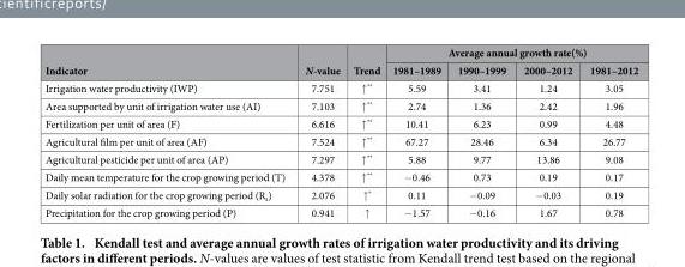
<table><thead><tr><td rowspan="2">Indicator</td><td rowspan="2">N-value</td><td rowspan="2">Trend</td><td colspan="4">Average annual growth rate(%)</td></tr><tr><td>1981–1989</td><td>1990–1999</td><td>2000–2012</td><td>1981–2012</td></tr></thead><tbody><tr><td>Irrigation water productivity (IWP)</td><td>7.751</td><td>↑ **</td><td>5.59</td><td>3.41</td><td>1.24</td><td>3.05</td></tr><tr><td>Area supported by unit of irrigation water use (AI)</td><td>7.103</td><td>↑ **</td><td>2.74</td><td>1.36</td><td>2.42</td><td>1.96</td></tr><tr><td>Fertilization per unit of area (F)</td><td>6.616</td><td>↑ **</td><td>10.41</td><td>6.23</td><td>0.99</td><td>4.48</td></tr><tr><td>Agricultural film per unit of area (AF)</td><td>7.524</td><td>↑ **</td><td>67.27</td><td>28.46</td><td>6.34</td><td>26.77</td></tr><tr><td>Agricultural pesticide per unit of area (AP)</td><td>7.297</td><td>↑ **</td><td>5.88</td><td>9.77</td><td>13.86</td><td>9.08</td></tr><tr><td>Daily mean temperature for the crop growing period (T)</td><td>4.378</td><td>↑ **</td><td>− 0.46</td><td>0.73</td><td>0.19</td><td>0.17</td></tr><tr><td>Daily solar radiation for the crop growing period (R<sub>s</sub>)</td><td>2.076</td><td>↑ *</td><td>0.11</td><td>− 0.09</td><td>− 0.03</td><td>0.19</td></tr><tr><td>Precipitation for the crop growing period (P)</td><td>0.941</td><td>↑</td><td>− 1.57</td><td>− 0.16</td><td>1.67</td><td>0.78</td></tr></tbody></table>